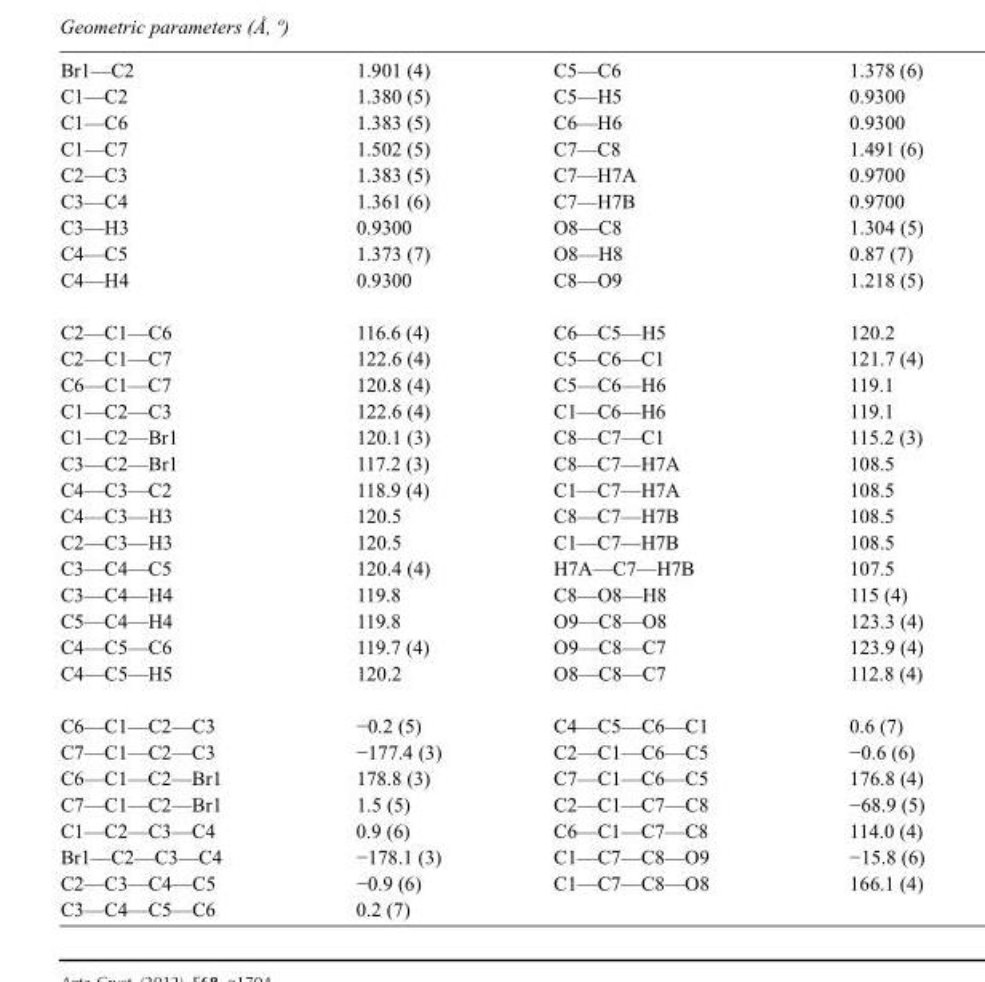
<table><tbody><tr><td>Br1—C2</td><td>1.901 (4)</td><td>C5—C6</td><td>1.378 (6)</td></tr><tr><td>C1—C2</td><td>1.380 (5)</td><td>C5—H5</td><td>0.9300</td></tr><tr><td>C1—C6</td><td>1.383 (5)</td><td>C6—H6</td><td>0.9300</td></tr><tr><td>C1—C7</td><td>1.502 (5)</td><td>C7—C8</td><td>1.491 (6)</td></tr><tr><td>C2—C3</td><td>1.383 (5)</td><td>C7—H7A</td><td>0.9700</td></tr><tr><td>C3—C4</td><td>1.361 (6)</td><td>C7—H7B</td><td>0.9700</td></tr><tr><td>C3—H3</td><td>0.9300</td><td>O8—C8</td><td>1.304 (5)</td></tr><tr><td>C4—C5</td><td>1.373 (7)</td><td>O8—H8</td><td>0.87 (7)</td></tr><tr><td>C4—H4</td><td>0.9300</td><td>C8—O9</td><td>1.218 (5)</td></tr><tr><td>C2—C1—C6</td><td>116.6 (4)</td><td>C6—C5—H5</td><td>120.2</td></tr><tr><td>C2—C1—C7</td><td>122.6 (4)</td><td>C5—C6—C1</td><td>121.7 (4)</td></tr><tr><td>C6—C1—C7</td><td>120.8 (4)</td><td>C5—C6—H6</td><td>119.1</td></tr><tr><td>C1—C2—C3</td><td>122.6 (4)</td><td>C1—C6—H6</td><td>119.1</td></tr><tr><td>C1—C2—Br1</td><td>120.1 (3)</td><td>C8—C7—C1</td><td>115.2 (3)</td></tr><tr><td>C3—C2—Br1</td><td>117.2 (3)</td><td>C8—C7—H7A</td><td>108.5</td></tr><tr><td>C4—C3—C2</td><td>118.9 (4)</td><td>C1—C7—H7A</td><td>108.5</td></tr><tr><td>C4—C3—H3</td><td>120.5</td><td>C8—C7—H7B</td><td>108.5</td></tr><tr><td>C2—C3—H3</td><td>120.5</td><td>C1—C7—H7B</td><td>108.5</td></tr><tr><td>C3—C4—C5</td><td>120.4 (4)</td><td>H7A—C7—H7B</td><td>107.5</td></tr><tr><td>C3—C4—H4</td><td>119.8</td><td>C8—O8—H8</td><td>115 (4)</td></tr><tr><td>C5—C4—H4</td><td>119.8</td><td>O9—C8—O8</td><td>123.3 (4)</td></tr><tr><td>C4—C5—C6</td><td>119.7 (4)</td><td>O9—C8—C7</td><td>123.9 (4)</td></tr><tr><td>C4—C5—H5</td><td>120.2</td><td>O8—C8—C7</td><td>112.8 (4)</td></tr><tr><td>C6—C1—C2—C3</td><td>−0.2 (5)</td><td>C4—C5—C6—C1</td><td>0.6 (7)</td></tr><tr><td>C7—C1—C2—C3</td><td>−177.4 (3)</td><td>C2—C1—C6—C5</td><td>−0.6 (6)</td></tr><tr><td>C6—C1—C2—Br1</td><td>178.8 (3)</td><td>C7—C1—C6—C5</td><td>176.8 (4)</td></tr><tr><td>C7—C1—C2—Br1</td><td>1.5 (5)</td><td>C2—C1—C7—C8</td><td>−68.9 (5)</td></tr><tr><td>C1—C2—C3—C4</td><td>0.9 (6)</td><td>C6—C1—C7—C8</td><td>114.0 (4)</td></tr><tr><td>Br1—C2—C3—C4</td><td>−178.1 (3)</td><td>C1—C7—C8—O9</td><td>−15.8 (6)</td></tr><tr><td>C2—C3—C4—C5</td><td>−0.9 (6)</td><td>C1—C7—C8—O8</td><td>166.1 (4)</td></tr><tr><td>C3—C4—C5—C6</td><td>0.2 (7)</td><td></td><td></td></tr></tbody></table>